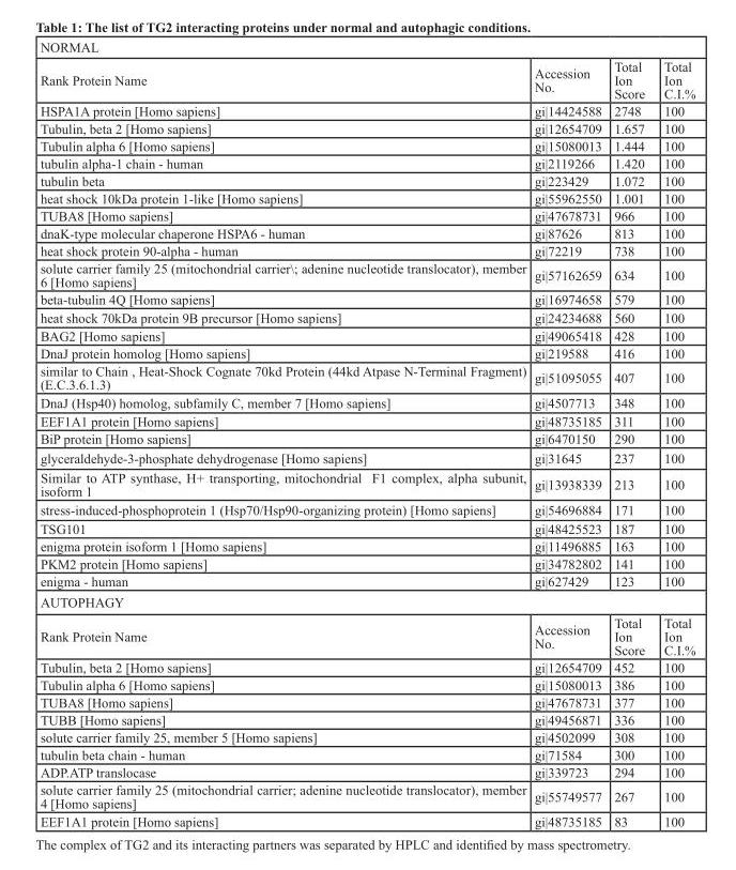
<table><thead><tr><td colspan="4">NORMAL</td></tr><tr><td>Rank Protein Name</td><td>Accession No.</td><td>Total Ion Score</td><td>Total Ion C.I.%</td></tr></thead><tbody><tr><td>HSPA1A protein [Homo sapiens]</td><td>gi|14424588</td><td>2748</td><td>100</td></tr><tr><td>Tubulin, beta 2 [Homo sapiens]</td><td>gi|12654709</td><td>1.657</td><td>100</td></tr><tr><td>Tubulin alpha 6 [Homo sapiens]</td><td>gi|15080013</td><td>1.444</td><td>100</td></tr><tr><td>tubulin alpha-1 chain - human</td><td>gi|2119266</td><td>1.420</td><td>100</td></tr><tr><td>tubulin beta</td><td>gi|223429</td><td>1.072</td><td>100</td></tr><tr><td>heat shock 10kDa protein 1-like [Homo sapiens]</td><td>gi|55962550</td><td>1.001</td><td>100</td></tr><tr><td>TUBA8 [Homo sapiens]</td><td>gi|47678731</td><td>966</td><td>100</td></tr><tr><td>dnaK-type molecular chaperone HSPA6 - human</td><td>gi|87626</td><td>813</td><td>100</td></tr><tr><td>heat shock protein 90-alpha - human</td><td>gi|72219</td><td>738</td><td>100</td></tr><tr><td>solute carrier family 25 (mitochondrial carrier\; adenine nucleotide translocator), member 6 [Homo sapiens]</td><td>gi|57162659</td><td>634</td><td>100</td></tr><tr><td>beta-tubulin 4Q [Homo sapiens]</td><td>gi|16974658</td><td>579</td><td>100</td></tr><tr><td>heat shock 70kDa protein 9B precursor [Homo sapiens]</td><td>gi|24234688</td><td>560</td><td>100</td></tr><tr><td>BAG2 [Homo sapiens]</td><td>gi|49065418</td><td>428</td><td>100</td></tr><tr><td>DnaJ protein homolog [Homo sapiens]</td><td>gi|219588</td><td>416</td><td>100</td></tr><tr><td>similar to Chain , Heat-Shock Cognate 70kd Protein (44kd Atpase N-Terminal Fragment) (E.C.3.6.1.3)</td><td>gi|51095055</td><td>407</td><td>100</td></tr><tr><td>DnaJ (Hsp40) homolog, subfamily C, member 7 [Homo sapiens]</td><td>gi|4507713</td><td>348</td><td>100</td></tr><tr><td>EEF1A1 protein [Homo sapiens]</td><td>gi|48735185</td><td>311</td><td>100</td></tr><tr><td>BiP protein [Homo sapiens]</td><td>gi|6470150</td><td>290</td><td>100</td></tr><tr><td>glyceraldehyde-3-phosphate dehydrogenase [Homo sapiens]</td><td>gi|31645</td><td>237</td><td>100</td></tr><tr><td>Similar to ATP synthase, H+ transporting, mitochondrial F1 complex, alpha subunit, isoform 1</td><td>gi|13938339</td><td>213</td><td>100</td></tr><tr><td>stress-induced-phosphoprotein 1 (Hsp70/Hsp90-organizing protein) [Homo sapiens]</td><td>gi|54696884</td><td>171</td><td>100</td></tr><tr><td>TSG101</td><td>gi|48425523</td><td>187</td><td>100</td></tr><tr><td>enigma protein isoform 1 [Homo sapiens]</td><td>gi|11496885</td><td>163</td><td>100</td></tr><tr><td>PKM2 protein [Homo sapiens]</td><td>gi|34782802</td><td>141</td><td>100</td></tr><tr><td>enigma - human</td><td>gi|627429</td><td>123</td><td>100</td></tr><tr><td colspan="4">AUTOPHAGY</td></tr><tr><td>Rank Protein Name</td><td>Accession No.</td><td>Total Ion Score</td><td>Total Ion C.I.%</td></tr><tr><td>Tubulin, beta 2 [Homo sapiens]</td><td>gi|12654709</td><td>452</td><td>100</td></tr><tr><td>Tubulin alpha 6 [Homo sapiens]</td><td>gi|15080013</td><td>386</td><td>100</td></tr><tr><td>TUBA8 [Homo sapiens]</td><td>gi|47678731</td><td>377</td><td>100</td></tr><tr><td>TUBB [Homo sapiens]</td><td>gi|49456871</td><td>336</td><td>100</td></tr><tr><td>solute carrier family 25, member 5 [Homo sapiens]</td><td>gi|4502099</td><td>308</td><td>100</td></tr><tr><td>tubulin beta chain - human</td><td>gi|71584</td><td>300</td><td>100</td></tr><tr><td>ADP.ATP translocase</td><td>gi|339723</td><td>294</td><td>100</td></tr><tr><td>solute carrier family 25 (mitochondrial carrier; adenine nucleotide translocator), member 4 [Homo sapiens]</td><td>gi|55749577</td><td>267</td><td>100</td></tr><tr><td>EEF1A1 protein [Homo sapiens]</td><td>gi|48735185</td><td>83</td><td>100</td></tr></tbody></table>